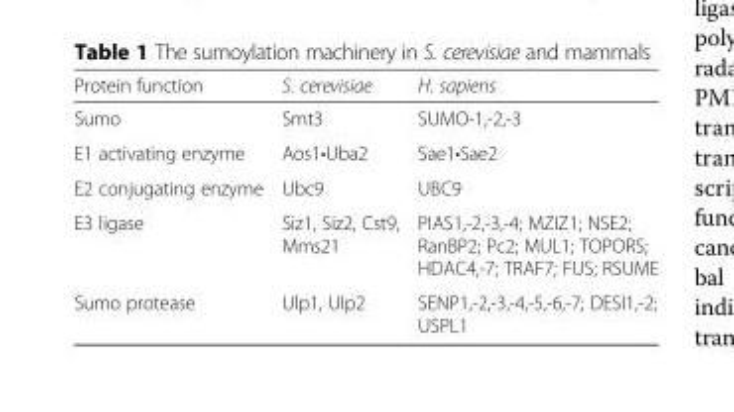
<table><thead><tr><td>Protein function</td><td>S. cerevisiae</td><td>H. sapiens</td></tr></thead><tbody><tr><td>Sumo</td><td>Smt3</td><td>SUMO-1,-2,-3</td></tr><tr><td>E1 activating enzyme</td><td>Aos1•Uba2</td><td>Sae1•Sae2</td></tr><tr><td>E2 conjugating enzyme</td><td>Ubc9</td><td>UBC9</td></tr><tr><td>E3 ligase</td><td>Siz1, Siz2, Cst9, Mms21</td><td>PIAS1,-2,-3,-4; MZIZ1; NSE2; RanBP2; Pc2; MUL1; TOPORS; HDAC4,-7; TRAF7; FUS; RSUME</td></tr><tr><td>Sumo protease</td><td>Ulp1, Ulp2</td><td>SENP1,-2,-3,-4,-5,-6,-7; DESI1,-2; USPL1</td></tr></tbody></table>